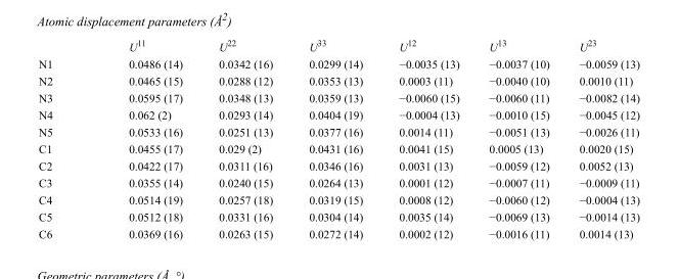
<table><thead><tr><td></td><td>U<sup>11</sup></td><td>U<sup>22</sup></td><td>U<sup>33</sup></td><td>U<sup>12</sup></td><td>U<sup>13</sup></td><td>U<sup>23</sup></td></tr></thead><tbody><tr><td>N1</td><td>0.0486 (14)</td><td>0.0342 (16)</td><td>0.0299 (14)</td><td>−0.0035 (13)</td><td>−0.0037 (10)</td><td>−0.0059 (13)</td></tr><tr><td>N2</td><td>0.0465 (15)</td><td>0.0288 (12)</td><td>0.0353 (13)</td><td>0.0003 (11)</td><td>−0.0040 (10)</td><td>0.0010 (11)</td></tr><tr><td>N3</td><td>0.0595 (17)</td><td>0.0348 (13)</td><td>0.0359 (13)</td><td>−0.0060 (15)</td><td>−0.0060 (11)</td><td>−0.0082 (14)</td></tr><tr><td>N4</td><td>0.062 (2)</td><td>0.0293 (14)</td><td>0.0404 (19)</td><td>−0.0004 (13)</td><td>−0.0010 (15)</td><td>−0.0045 (12)</td></tr><tr><td>N5</td><td>0.0533 (16)</td><td>0.0251 (13)</td><td>0.0377 (16)</td><td>0.0014 (11)</td><td>−0.0051 (13)</td><td>−0.0026 (11)</td></tr><tr><td>C1</td><td>0.0455 (17)</td><td>0.029 (2)</td><td>0.0431 (16)</td><td>0.0041 (15)</td><td>0.0005 (13)</td><td>0.0020 (15)</td></tr><tr><td>C2</td><td>0.0422 (17)</td><td>0.0311 (16)</td><td>0.0346 (16)</td><td>0.0031 (13)</td><td>−0.0059 (12)</td><td>0.0052 (13)</td></tr><tr><td>C3</td><td>0.0355 (14)</td><td>0.0240 (15)</td><td>0.0264 (13)</td><td>0.0001 (12)</td><td>−0.0007 (11)</td><td>−0.0009 (11)</td></tr><tr><td>C4</td><td>0.0514 (19)</td><td>0.0257 (18)</td><td>0.0319 (15)</td><td>0.0008 (12)</td><td>−0.0060 (12)</td><td>−0.0004 (13)</td></tr><tr><td>C5</td><td>0.0512 (18)</td><td>0.0331 (16)</td><td>0.0304 (14)</td><td>0.0035 (14)</td><td>−0.0069 (13)</td><td>−0.0014 (13)</td></tr><tr><td>C6</td><td>0.0369 (16)</td><td>0.0263 (15)</td><td>0.0272 (14)</td><td>0.0002 (12)</td><td>−0.0016 (11)</td><td>0.0014 (13)</td></tr></tbody></table>